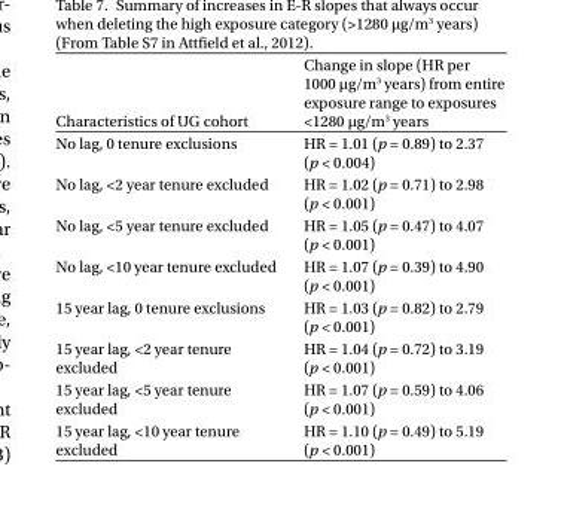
<table><thead><tr><td>Characteristics of UG cohort</td><td>Change in slope (HR per 1000 µg/m<sup>3</sup> years) from entire exposure range to exposures &lt;1280 µg/m<sup>3</sup> years</td></tr></thead><tbody><tr><td>No lag, 0 tenure exclusions</td><td>HR = 1.01 (p = 0.89) to 2.37 (p &lt; 0.004)</td></tr><tr><td>No lag, &lt;2 year tenure excluded</td><td>HR = 1.02 (p = 0.71) to 2.98 (p &lt; 0.001)</td></tr><tr><td>No lag, &lt;5 year tenure excluded</td><td>HR = 1.05 (p = 0.47) to 4.07 (p &lt; 0.001)</td></tr><tr><td>No lag, &lt;10 year tenure excluded</td><td>HR = 1.07 (p = 0.39) to 4.90 (p &lt; 0.001)</td></tr><tr><td>15 year lag, 0 tenure exclusions</td><td>HR = 1.03 (p = 0.82) to 2.79 (p &lt; 0.001)</td></tr><tr><td>15 year lag, &lt;2 year tenure excluded</td><td>HR = 1.04 (p = 0.72) to 3.19 (p &lt; 0.001)</td></tr><tr><td>15 year lag, &lt;5 year tenure excluded</td><td>HR = 1.07 (p = 0.59) to 4.06 (p &lt; 0.001)</td></tr><tr><td>15 year lag, &lt;10 year tenure excluded</td><td>HR = 1.10 (p = 0.49) to 5.19 (p &lt; 0.001)</td></tr></tbody></table>